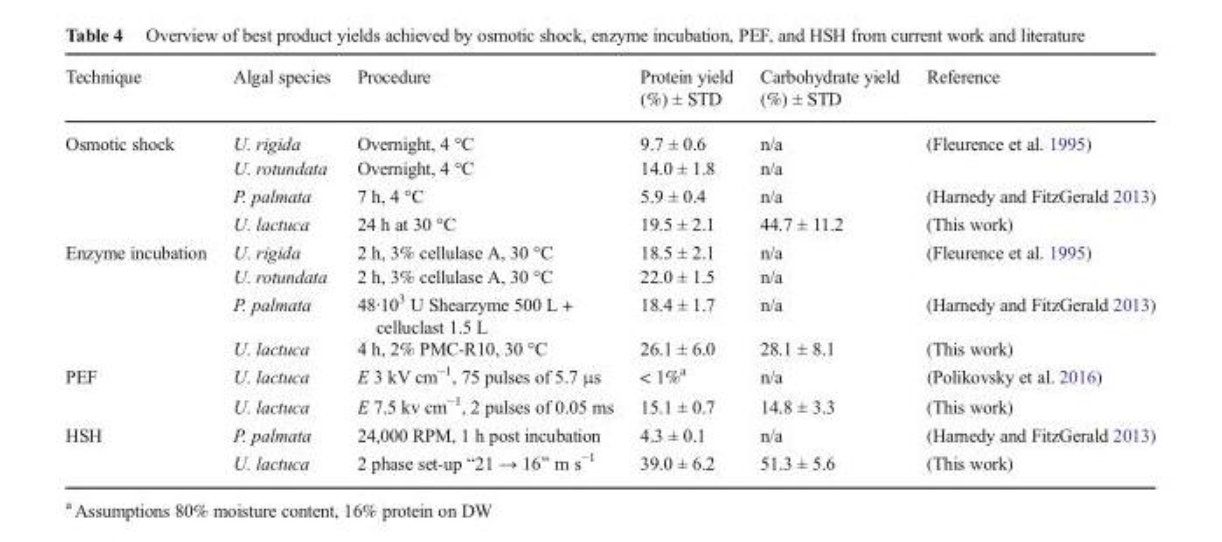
<table><thead><tr><td>Technique</td><td>Algal species</td><td>Procedure</td><td>Protein yield (%) ± STD</td><td>Carbohydrate yield (%) ± STD</td><td>Reference</td></tr></thead><tbody><tr><td rowspan="4">Osmotic shock</td><td>U. rigida</td><td>Overnight, 4 °C</td><td>9.7 ± 0.6</td><td>n/a</td><td rowspan="2">(Fleurence et al. 1995)</td></tr><tr><td>U. rotundata</td><td>Overnight, 4 °C</td><td>14.0 ± 1.8</td><td>n/a</td></tr><tr><td>P. palmata</td><td>7 h, 4 °C</td><td>5.9 ± 0.4</td><td>n/a</td><td>(Harnedy and FitzGerald 2013)</td></tr><tr><td>U. lactuca</td><td>24 h at 30 °C</td><td>19.5 ± 2.1</td><td>44.7 ± 11.2</td><td>(This work)</td></tr><tr><td rowspan="4">Enzyme incubation</td><td>U. rigida</td><td>2 h, 3% cellulase A, 30 °C</td><td>18.5 ± 2.1</td><td>n/a</td><td rowspan="2">(Fleurence et al. 1995)</td></tr><tr><td>U. rotundata</td><td>2 h, 3% cellulase A, 30 °C</td><td>22.0 ± 1.5</td><td>n/a</td></tr><tr><td>P. palmata</td><td>48∙10<sup>3</sup> U Shearzyme 500 L + celluclast 1.5 L</td><td>18.4 ± 1.7</td><td>n/a</td><td>(Harnedy and FitzGerald 2013)</td></tr><tr><td>U. lactuca</td><td>4 h, 2% PMC-R10, 30 °C</td><td>26.1 ± 6.0</td><td>28.1 ± 8.1</td><td>(This work)</td></tr><tr><td rowspan="2">PEF</td><td>U. lactuca</td><td>E 3 kV cm<sup>−1</sup>, 75 pulses of 5.7 μs</td><td>&lt; 1%<sup>a</sup></td><td>n/a</td><td>(Polikovsky et al. 2016)</td></tr><tr><td>U. lactuca</td><td>E 7.5 kv cm<sup>−1</sup>, 2 pulses of 0.05 ms</td><td>15.1 ± 0.7</td><td>14.8 ± 3.3</td><td>(This work)</td></tr><tr><td rowspan="2">HSH</td><td>P. palmata</td><td>24,000 RPM, 1 h post incubation</td><td>4.3 ± 0.1</td><td>n/a</td><td>(Harnedy and FitzGerald 2013)</td></tr><tr><td>U. lactuca</td><td>2 phase set-up “21 → 16” m s<sup>−1</sup></td><td>39.0 ± 6.2</td><td>51.3 ± 5.6</td><td>(This work)</td></tr></tbody></table>